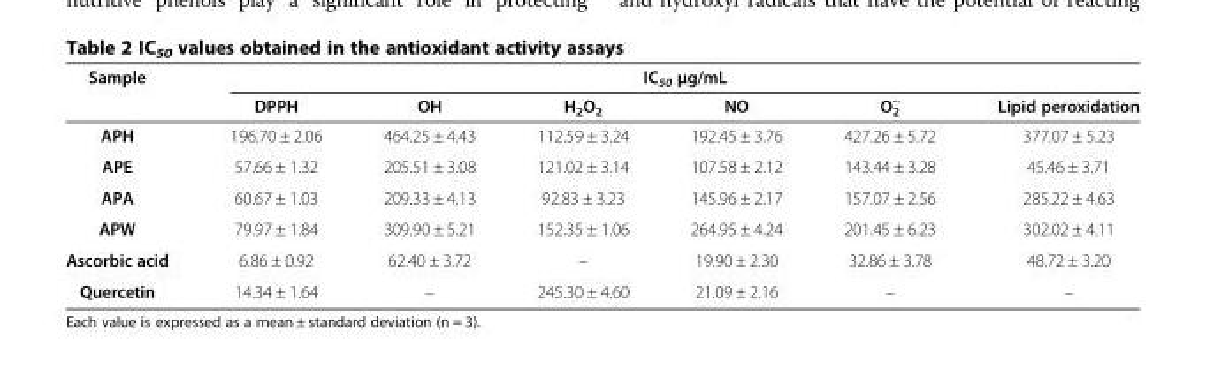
<table><thead><tr><td rowspan="2">Sample</td><td colspan="6">IC<sub>50</sub> μg/mL</td></tr><tr><td>DPPH</td><td>OH</td><td>H<sub>2</sub>O<sub>2</sub></td><td>NO</td><td>O<sub>2</sub> <sup>-·</sup></td><td>Lipid peroxidation</td></tr></thead><tbody><tr><td>APH</td><td>196.70 ± 2.06</td><td>464.25 ± 4.43</td><td>112.59 ± 3.24</td><td>192.45 ± 3.76</td><td>427.26 ± 5.72</td><td>377.07 ± 5.23</td></tr><tr><td>APE</td><td>57.66 ± 1.32</td><td>205.51 ± 3.08</td><td>121.02 ± 3.14</td><td>107.58 ± 2.12</td><td>143.44 ± 3.28</td><td>45.46 ± 3.71</td></tr><tr><td>APA</td><td>60.67 ± 1.03</td><td>209.33 ± 4.13</td><td>92.83 ± 3.23</td><td>145.96 ± 2.17</td><td>157.07 ± 2.56</td><td>285.22 ± 4.63</td></tr><tr><td>APW</td><td>79.97 ± 1.84</td><td>309.90 ± 5.21</td><td>152.35 ± 1.06</td><td>264.95 ± 4.24</td><td>201.45 ± 6.23</td><td>302.02 ± 4.11</td></tr><tr><td>Ascorbic acid</td><td>6.86 ± 0.92</td><td>62.40 ± 3.72</td><td>–</td><td>19.90 ± 2.30</td><td>32.86 ± 3.78</td><td>48.72 ± 3.20</td></tr><tr><td>Quercetin</td><td>14.34 ± 1.64</td><td>–</td><td>245.30 ± 4.60</td><td>21.09 ± 2.16</td><td>–</td><td>–</td></tr></tbody></table>